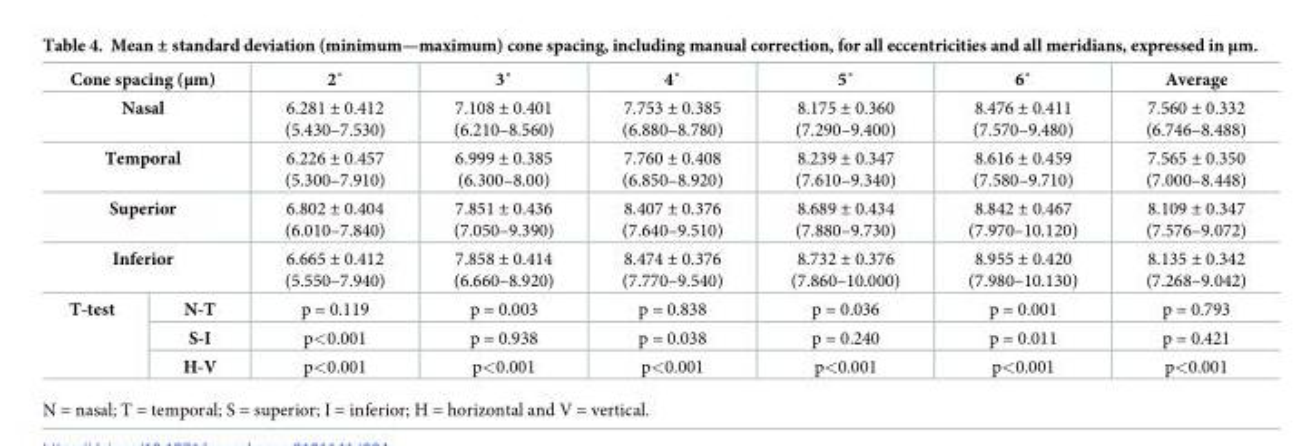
<table><thead><tr><td colspan="2">Cone spacing (μm)</td><td>2˚</td><td>3˚</td><td>4˚</td><td>5˚</td><td>6˚</td><td>Average</td></tr></thead><tbody><tr><td colspan="2">Nasal</td><td>6.281 ± 0.412 (5.430–7.530)</td><td>7.108 ± 0.401 (6.210–8.560)</td><td>7.753 ± 0.385 (6.880–8.780)</td><td>8.175 ± 0.360 (7.290–9.400)</td><td>8.476 ± 0.411 (7.570–9.480)</td><td>7.560 ± 0.332 (6.746–8.488)</td></tr><tr><td colspan="2">Temporal</td><td>6.226 ± 0.457 (5.300–7.910)</td><td>6.999 ± 0.385 (6.300–8.00)</td><td>7.760 ± 0.408 (6.850–8.920)</td><td>8.239 ± 0.347 (7.610–9.340)</td><td>8.616 ± 0.459 (7.580–9.710)</td><td>7.565 ± 0.350 (7.000–8.448)</td></tr><tr><td colspan="2">Superior</td><td>6.802 ± 0.404 (6.010–7.840)</td><td>7.851 ± 0.436 (7.050–9.390)</td><td>8.407 ± 0.376 (7.640–9.510)</td><td>8.689 ± 0.434 (7.880–9.730)</td><td>8.842 ± 0.467 (7.970–10.120)</td><td>8.109 ± 0.347 (7.576–9.072)</td></tr><tr><td colspan="2">Inferior</td><td>6.665 ± 0.412 (5.550–7.940)</td><td>7.858 ± 0.414 (6.660–8.920)</td><td>8.474 ± 0.376 (7.770–9.540)</td><td>8.732 ± 0.376 (7.860–10.000)</td><td>8.955 ± 0.420 (7.980–10.130)</td><td>8.135 ± 0.342 (7.268–9.042)</td></tr><tr><td rowspan="3">T-test</td><td>N-T</td><td>p = 0.119</td><td>p = 0.003</td><td>p = 0.838</td><td>p = 0.036</td><td>p = 0.001</td><td>p = 0.793</td></tr><tr><td>S-I</td><td>p&lt;0.001</td><td>p = 0.938</td><td>p = 0.038</td><td>p = 0.240</td><td>p = 0.011</td><td>p = 0.421</td></tr><tr><td>H-V</td><td>p&lt;0.001</td><td>p&lt;0.001</td><td>p&lt;0.001</td><td>p&lt;0.001</td><td>p&lt;0.001</td><td>p&lt;0.001</td></tr></tbody></table>